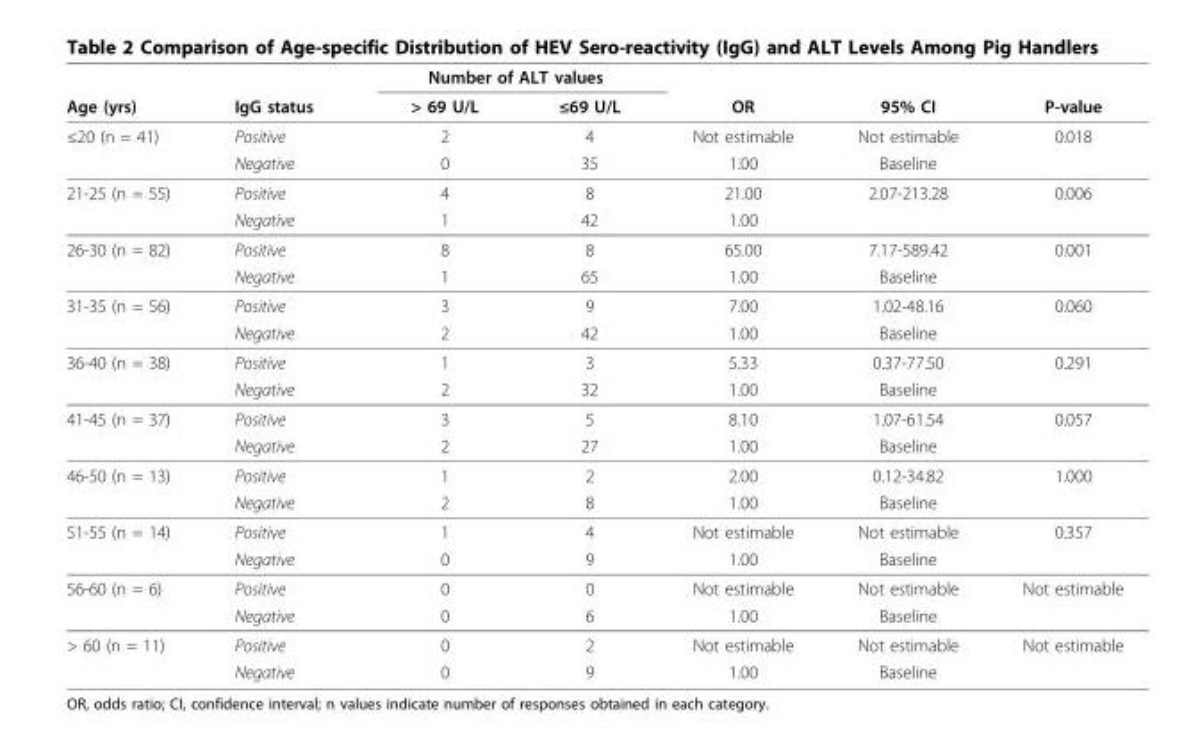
<table><thead><tr><td rowspan="2">Age (yrs)</td><td rowspan="2">IgG status</td><td colspan="2">Number of ALT values</td><td rowspan="2">OR</td><td rowspan="2">95% CI</td><td rowspan="2">P-value</td></tr><tr><td>&gt; 69 U/L</td><td>≤69 U/L</td></tr></thead><tbody><tr><td rowspan="2">≤20 (n = 41)</td><td>Positive</td><td>2</td><td>4</td><td>Not estimable</td><td>Not estimable</td><td>0.018</td></tr><tr><td>Negative</td><td>0</td><td>35</td><td>1.00</td><td>Baseline</td><td></td></tr><tr><td rowspan="2">21-25 (n = 55)</td><td>Positive</td><td>4</td><td>8</td><td>21.00</td><td>2.07-213.28</td><td>0.006</td></tr><tr><td>Negative</td><td>1</td><td>42</td><td>1.00</td><td></td><td></td></tr><tr><td rowspan="2">26-30 (n = 82)</td><td>Positive</td><td>8</td><td>8</td><td>65.00</td><td>7.17-589.42</td><td>0.001</td></tr><tr><td>Negative</td><td>1</td><td>65</td><td>1.00</td><td>Baseline</td><td></td></tr><tr><td rowspan="2">31-35 (n = 56)</td><td>Positive</td><td>3</td><td>9</td><td>7.00</td><td>1.02-48.16</td><td>0.060</td></tr><tr><td>Negative</td><td>2</td><td>42</td><td>1.00</td><td>Baseline</td><td></td></tr><tr><td rowspan="2">36-40 (n = 38)</td><td>Positive</td><td>1</td><td>3</td><td>5.33</td><td>0.37-77.50</td><td>0.291</td></tr><tr><td>Negative</td><td>2</td><td>32</td><td>1.00</td><td>Baseline</td><td></td></tr><tr><td rowspan="2">41-45 (n = 37)</td><td>Positive</td><td>3</td><td>5</td><td>8.10</td><td>1.07-61.54</td><td>0.057</td></tr><tr><td>Negative</td><td>2</td><td>27</td><td>1.00</td><td>Baseline</td><td></td></tr><tr><td rowspan="2">46-50 (n = 13)</td><td>Positive</td><td>1</td><td>2</td><td>2.00</td><td>0.12-34.82</td><td>1.000</td></tr><tr><td>Negative</td><td>2</td><td>8</td><td>1.00</td><td>Baseline</td><td></td></tr><tr><td rowspan="2">51-55 (n = 14)</td><td>Positive</td><td>1</td><td>4</td><td>Not estimable</td><td>Not estimable</td><td>0.357</td></tr><tr><td>Negative</td><td>0</td><td>9</td><td>1.00</td><td>Baseline</td><td></td></tr><tr><td rowspan="2">56-60 (n = 6)</td><td>Positive</td><td>0</td><td>0</td><td>Not estimable</td><td>Not estimable</td><td>Not estimable</td></tr><tr><td>Negative</td><td>0</td><td>6</td><td>1.00</td><td>Baseline</td><td></td></tr><tr><td rowspan="2">&gt; 60 (n = 11)</td><td>Positive</td><td>0</td><td>2</td><td>Not estimable</td><td>Not estimable</td><td>Not estimable</td></tr><tr><td>Negative</td><td>0</td><td>9</td><td>1.00</td><td>Baseline</td><td></td></tr></tbody></table>